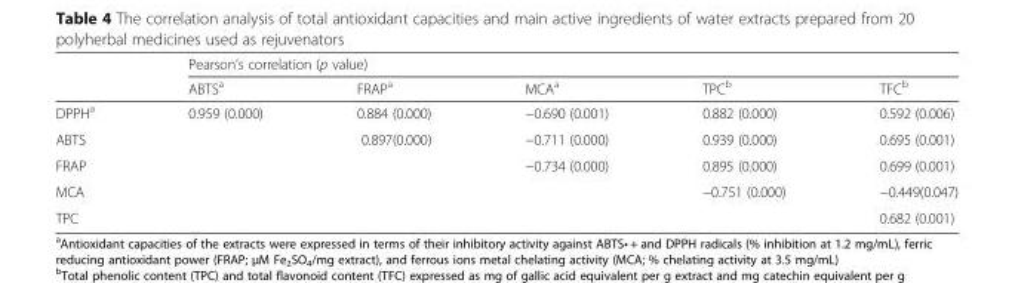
<table><thead><tr><td rowspan="2"></td><td colspan="5">Pearson’s correlation (p value)</td></tr><tr><td>ABTS<sup>a</sup></td><td>FRAP<sup>a</sup></td><td>MCA<sup>a</sup></td><td>TPC<sup>b</sup></td><td>TFC<sup>b</sup></td></tr></thead><tbody><tr><td>DPPH<sup>a</sup></td><td>0.959 (0.000)</td><td>0.884 (0.000)</td><td>−0.690 (0.001)</td><td>0.882 (0.000)</td><td>0.592 (0.006)</td></tr><tr><td>ABTS</td><td></td><td>0.897(0.000)</td><td>−0.711 (0.000)</td><td>0.939 (0.000)</td><td>0.695 (0.001)</td></tr><tr><td>FRAP</td><td></td><td></td><td>−0.734 (0.000)</td><td>0.895 (0.000)</td><td>0.699 (0.001)</td></tr><tr><td>MCA</td><td></td><td></td><td></td><td>−0.751 (0.000)</td><td>−0.449(0.047)</td></tr><tr><td>TPC</td><td></td><td></td><td></td><td></td><td>0.682 (0.001)</td></tr></tbody></table>